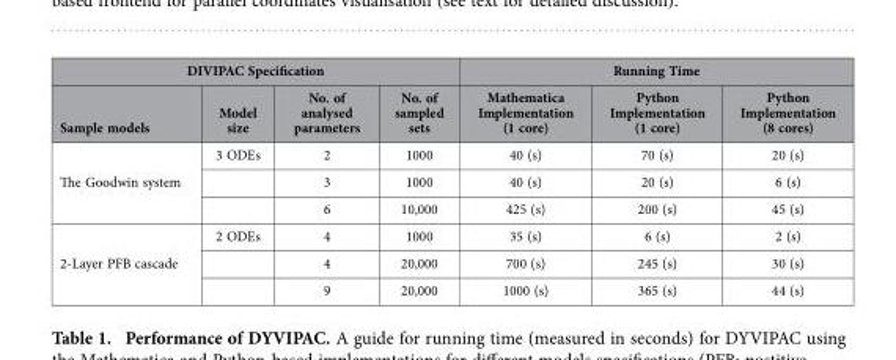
<table><thead><tr><td colspan="4">DIVIPAC Specification</td><td colspan="3">Running Time</td></tr><tr><td>Sample models</td><td>Model size</td><td>No. of analysed parameters</td><td>No. of sampled sets</td><td>Mathematica Implementation (1 core)</td><td>Python Implementation (1 core)</td><td>Python Implementation (8 cores)</td></tr></thead><tbody><tr><td rowspan="3">The Goodwin system</td><td>3 ODEs</td><td>2</td><td>1000</td><td>40 (s)</td><td>70 (s)</td><td>20 (s)</td></tr><tr><td></td><td>3</td><td>1000</td><td>40 (s)</td><td>20 (s)</td><td>6 (s)</td></tr><tr><td></td><td>6</td><td>10,000</td><td>425 (s)</td><td>200 (s)</td><td>45 (s)</td></tr><tr><td rowspan="3">2-Layer PFB cascade</td><td>2 ODEs</td><td>4</td><td>1000</td><td>35 (s)</td><td>6 (s)</td><td>2 (s)</td></tr><tr><td></td><td>4</td><td>20,000</td><td>700 (s)</td><td>245 (s)</td><td>30 (s)</td></tr><tr><td></td><td>9</td><td>20,000</td><td>1000 (s)</td><td>365 (s)</td><td>44 (s)</td></tr></tbody></table>